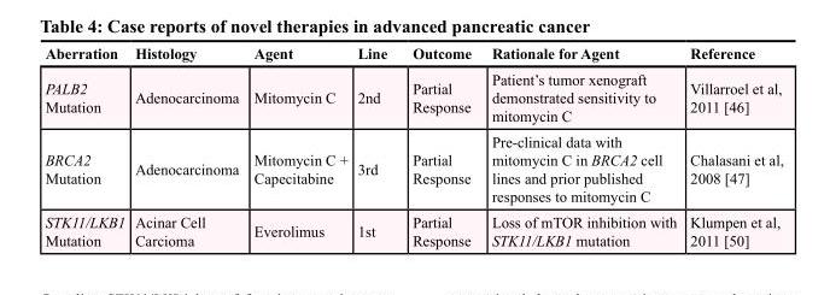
<table><thead><tr><td>Aberration</td><td>Histology</td><td>Agent</td><td>Line</td><td>Outcome</td><td>Rationale for Agent</td><td>Reference</td></tr></thead><tbody><tr><td>PALB2 Mutation</td><td>Adenocarcinoma</td><td>Mitomycin C</td><td>2nd</td><td>Partial Response</td><td>Patient’s tumor xenograft demonstrated sensitivity to mitomycin C</td><td>Villarroel et al, 2011 [46]</td></tr><tr><td>BRCA2 Mutation</td><td>Adenocarcinoma</td><td>Mitomycin C + Capecitabine</td><td>3rd</td><td>Partial Response</td><td>Pre-clinical data with mitomycin C in BRCA2 cell lines and prior published responses to mitomycin C</td><td>Chalasani et al, 2008 [47]</td></tr><tr><td>STK11/LKB1 Mutation</td><td>Acinar Cell Carcioma</td><td>Everolimus</td><td>1st</td><td>Partial Response</td><td>Loss of mTOR inhibition with STK11/LKB1 mutation</td><td>Klumpen et al, 2011 [50]</td></tr></tbody></table>